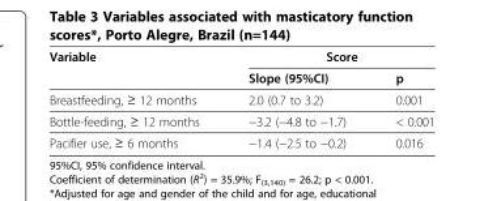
<table><thead><tr><td rowspan="2">Variable</td><td colspan="2">Score</td></tr><tr><td>Slope (95%CI)</td><td>p</td></tr></thead><tbody><tr><td>Breastfeeding, ≥ 12 months</td><td>2.0 (0.7 to 3.2)</td><td>0.001</td></tr><tr><td>Bottle-feeding, ≥ 12 months</td><td>−3.2 (−4.8 to −1.7)</td><td>&lt; 0.001</td></tr><tr><td>Pacifier use, ≥ 6 months</td><td>−1.4 (−2.5 to −0.2)</td><td>0.016</td></tr></tbody></table>